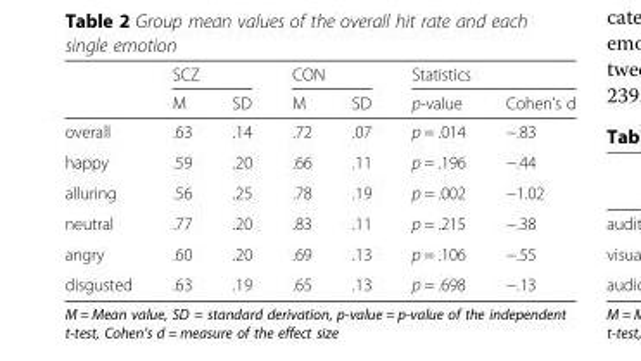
<table><thead><tr><td rowspan="2"></td><td colspan="2">SCZ</td><td colspan="2">CON</td><td colspan="2">Statistics</td></tr><tr><td>M</td><td>SD</td><td>M</td><td>SD</td><td>p-value</td><td>Cohen’s d</td></tr></thead><tbody><tr><td>overall</td><td>.63</td><td>.14</td><td>.72</td><td>.07</td><td>p = .014</td><td>−.83</td></tr><tr><td>happy</td><td>.59</td><td>.20</td><td>.66</td><td>.11</td><td>p = .196</td><td>−.44</td></tr><tr><td>alluring</td><td>.56</td><td>.25</td><td>.78</td><td>.19</td><td>p = .002</td><td>−1.02</td></tr><tr><td>neutral</td><td>.77</td><td>.20</td><td>.83</td><td>.11</td><td>p = .215</td><td>−.38</td></tr><tr><td>angry</td><td>.60</td><td>.20</td><td>.69</td><td>.13</td><td>p = .106</td><td>−.55</td></tr><tr><td>disgusted</td><td>.63</td><td>.19</td><td>.65</td><td>.13</td><td>p = .698</td><td>−.13</td></tr></tbody></table>